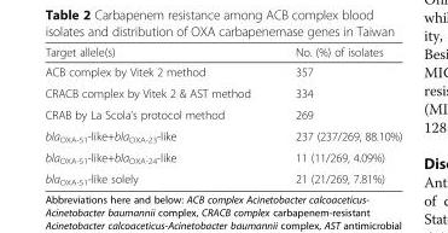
<table><thead><tr><td>Target allele(s)</td><td>No. (%) of isolates</td></tr></thead><tbody><tr><td>ACB complex by Vitek 2 method</td><td>357</td></tr><tr><td>CRACB complex by Vitek 2 &amp; AST method</td><td>334</td></tr><tr><td>CRAB by La Scola’s protocol method</td><td>269</td></tr><tr><td>bla<sub>OXA-51</sub>-like+bla<sub>OXA-23</sub>-like</td><td>237 (237/269, 88.10%)</td></tr><tr><td>bla<sub>OXA-51</sub>-like+bla<sub>OXA-24</sub>-like</td><td>11 (11/269, 4.09%)</td></tr><tr><td>bla<sub>OXA-51</sub>-like solely</td><td>21 (21/269, 7.81%)</td></tr></tbody></table>